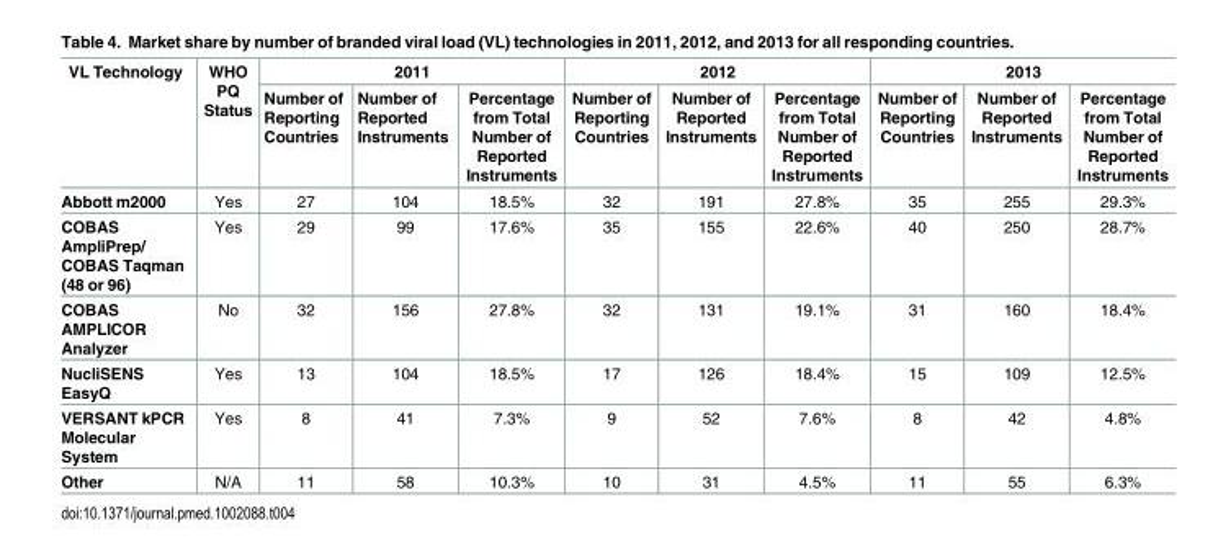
<table><thead><tr><td rowspan="2">VL Technology</td><td rowspan="2">WHO PQ Status</td><td colspan="3">2011</td><td colspan="3">2012</td><td colspan="3">2013</td></tr><tr><td>Number of Reporting Countries</td><td>Number of Reported Instruments</td><td>Percentage from Total Number of Reported Instruments</td><td>Number of Reporting Countries</td><td>Number of Reported Instruments</td><td>Percentage from Total Number of Reported Instruments</td><td>Number of Reporting Countries</td><td>Number of Reported Instruments</td><td>Percentage from Total Number of Reported Instruments</td></tr></thead><tbody><tr><td>Abbott m2000</td><td>Yes</td><td>27</td><td>104</td><td>18.5%</td><td>32</td><td>191</td><td>27.8%</td><td>35</td><td>255</td><td>29.3%</td></tr><tr><td>COBAS AmpliPrep/ COBAS Taqman (48 or 96)</td><td>Yes</td><td>29</td><td>99</td><td>17.6%</td><td>35</td><td>155</td><td>22.6%</td><td>40</td><td>250</td><td>28.7%</td></tr><tr><td>COBAS AMPLICOR Analyzer</td><td>No</td><td>32</td><td>156</td><td>27.8%</td><td>32</td><td>131</td><td>19.1%</td><td>31</td><td>160</td><td>18.4%</td></tr><tr><td>NucliSENS EasyQ</td><td>Yes</td><td>13</td><td>104</td><td>18.5%</td><td>17</td><td>126</td><td>18.4%</td><td>15</td><td>109</td><td>12.5%</td></tr><tr><td>VERSANT kPCR Molecular System</td><td>Yes</td><td>8</td><td>41</td><td>7.3%</td><td>9</td><td>52</td><td>7.6%</td><td>8</td><td>42</td><td>4.8%</td></tr><tr><td>Other</td><td>N/A</td><td>11</td><td>58</td><td>10.3%</td><td>10</td><td>31</td><td>4.5%</td><td>11</td><td>55</td><td>6.3%</td></tr></tbody></table>